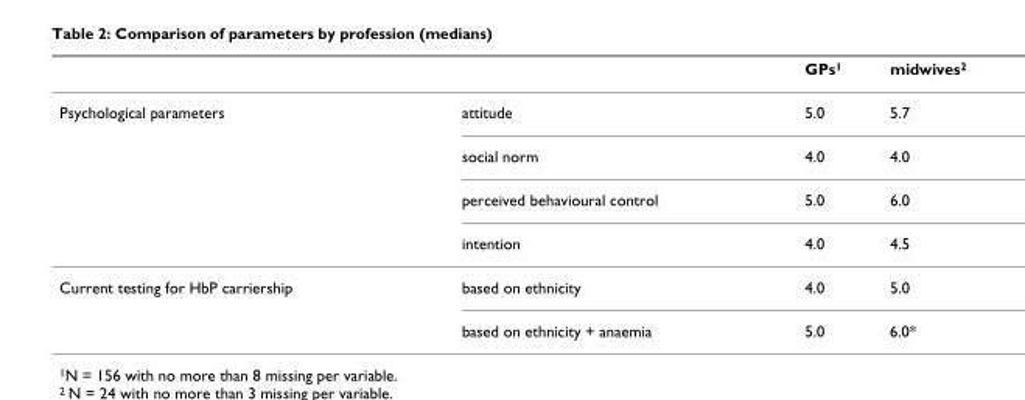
<table><thead><tr><td></td><td></td><td>GPs<sup>1</sup></td><td>midwives<sup>2</sup></td></tr></thead><tbody><tr><td rowspan="4">Psychological parameters</td><td>attitude</td><td>5.0</td><td>5.7</td></tr><tr><td>social norm</td><td>4.0</td><td>4.0</td></tr><tr><td>perceived behavioural control</td><td>5.0</td><td>6.0</td></tr><tr><td>intention</td><td>4.0</td><td>4.5</td></tr><tr><td rowspan="2">Current testing for HbP carriership</td><td>based on ethnicity</td><td>4.0</td><td>5.0</td></tr><tr><td>based on ethnicity + anaemia</td><td>5.0</td><td>6.0*</td></tr></tbody></table>